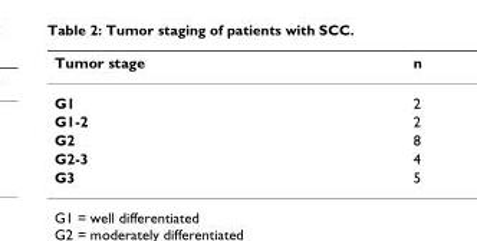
<table><thead><tr><td>Tumor stage</td><td>n</td></tr></thead><tbody><tr><td>G1</td><td>2</td></tr><tr><td>G1-2</td><td>2</td></tr><tr><td>G2</td><td>8</td></tr><tr><td>G2-3</td><td>4</td></tr><tr><td>G3</td><td>5</td></tr></tbody></table>